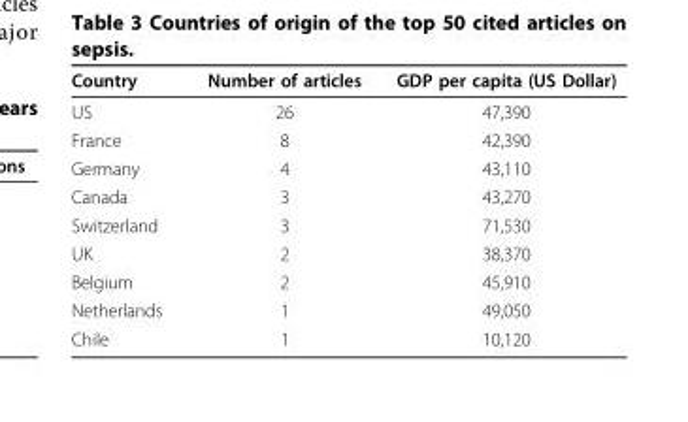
<table><thead><tr><td>Country</td><td>Number of articles</td><td>GDP per capita (US Dollar)</td></tr></thead><tbody><tr><td>US</td><td>26</td><td>47,390</td></tr><tr><td>France</td><td>8</td><td>42,390</td></tr><tr><td>Germany</td><td>4</td><td>43,110</td></tr><tr><td>Canada</td><td>3</td><td>43,270</td></tr><tr><td>Switzerland</td><td>3</td><td>71,530</td></tr><tr><td>UK</td><td>2</td><td>38,370</td></tr><tr><td>Belgium</td><td>2</td><td>45,910</td></tr><tr><td>Netherlands</td><td>1</td><td>49,050</td></tr><tr><td>Chile</td><td>1</td><td>10,120</td></tr></tbody></table>